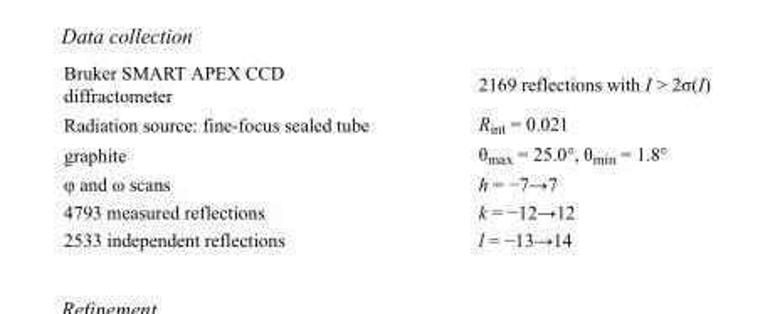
<table><tbody><tr><td>Bruker SMART APEX CCD diffractometer</td><td>2169 reflections with I &gt; 2σ(I)</td></tr><tr><td>Radiation source: fine-focus sealed tube</td><td>R<sub>int</sub> = 0.021</td></tr><tr><td>graphite</td><td>θ<sub>max</sub> = 25.0°, θ<sub>min</sub> = 1.8°</td></tr><tr><td>φ and ω scans</td><td>h = −7→7</td></tr><tr><td>4793 measured reflections</td><td>k = −12→12</td></tr><tr><td>2533 independent reflections</td><td>l = −13→14</td></tr></tbody></table>